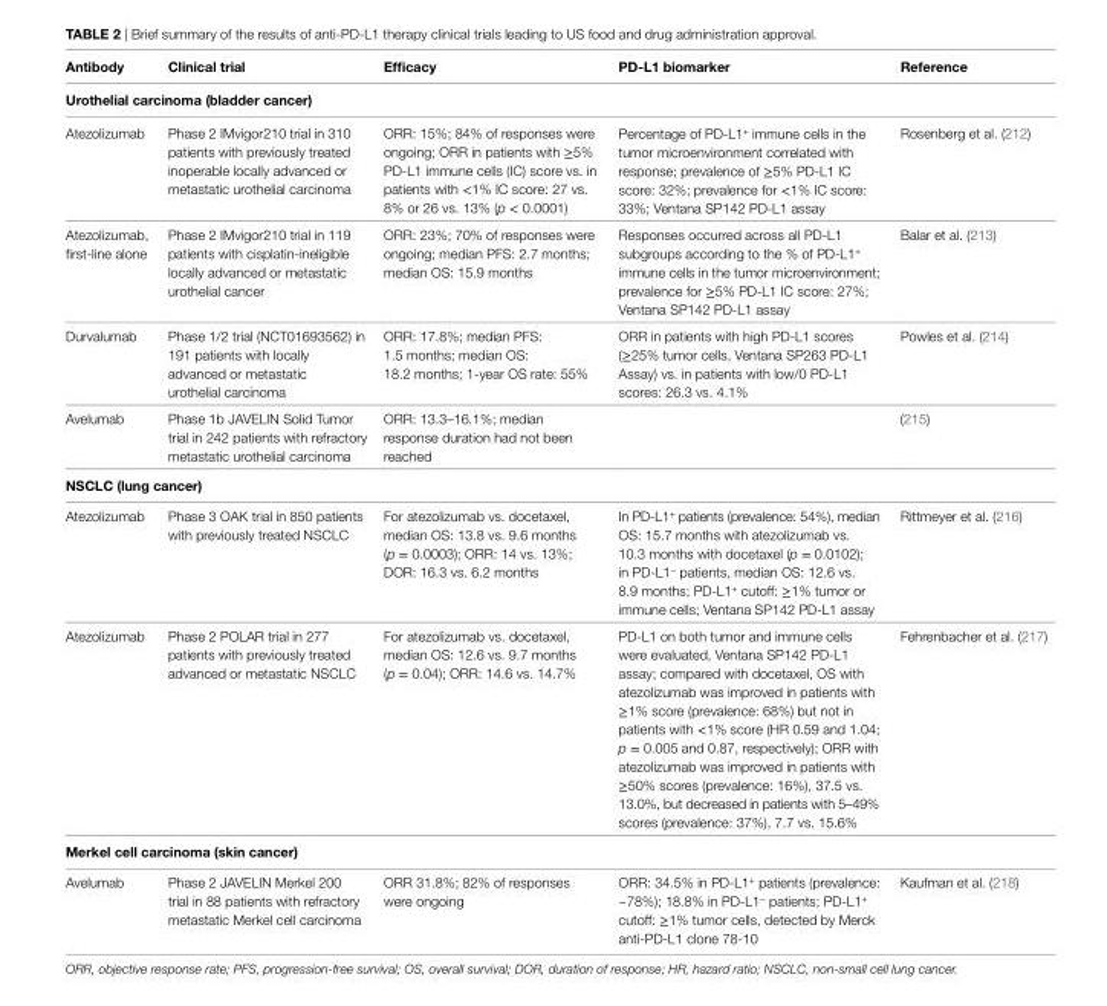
<table><thead><tr><td>Antibody</td><td>Clinical trial</td><td>efficacy</td><td>PD-L1 biomarker</td><td>Reference</td></tr></thead><tbody><tr><td colspan="5">Urothelial carcinoma (bladder cancer)</td></tr><tr><td>Atezolizumab</td><td>Phase 2 IMvigor210 trial in 310 patients with previously treated inoperable locally advanced or metastatic urothelial carcinoma</td><td>ORR: 15%; 84% of responses were ongoing; ORR in patients with ≥5% PD-L1 immune cells (IC) score vs. in patients with &lt;1% IC score: 27 vs. 8% or 26 vs. 13% (p &lt; 0.0001)</td><td>Percentage of PD-L1<sup>+</sup> immune cells in the tumor microenvironment correlated with response; prevalence of ≥5% PD-L1 IC score: 32%; prevalence for &lt;1% IC score: 33%; Ventana SP142 PD-L1 assay</td><td>Rosenberg et al. (212)</td></tr><tr><td>Atezolizumab, first-line alone</td><td>Phase 2 IMvigor210 trial in 119 patients with cisplatin-ineligible locally advanced or metastatic urothelial cancer</td><td>ORR: 23%; 70% of responses were ongoing; median PFS: 2.7 months; median OS: 15.9 months</td><td>Responses occurred across all PD-L1 subgroups according to the % of PD-L1<sup>+</sup> immune cells in the tumor microenvironment; prevalence for ≥5% PD-L1 IC score: 27%; Ventana SP142 PD-L1 assay</td><td>Balar et al. (213)</td></tr><tr><td>Durvalumab</td><td>Phase 1/2 trial (NCT01693562) in 191 patients with locally advanced or metastatic urothelial carcinoma</td><td>ORR: 17.8%; median PFS: 1.5 months; median OS: 18.2 months; 1-year OS rate: 55%</td><td>ORR in patients with high PD-L1 scores (≥25% tumor cells, Ventana SP263 PD-L1 Assay) vs. in patients with low/0 PD-L1 scores: 26.3 vs. 4.1%</td><td>Powles et al. (214)</td></tr><tr><td>Avelumab</td><td>Phase 1b JAVELIN Solid Tumor trial in 242 patients with refractory metastatic urothelial carcinoma</td><td>ORR: 13.3–16.1%; median response duration had not been reached</td><td></td><td>(215)</td></tr><tr><td colspan="5">NSCLC (lung cancer)</td></tr><tr><td>Atezolizumab</td><td>Phase 3 OAK trial in 850 patients with previously treated NSCLC</td><td>For atezolizumab vs. docetaxel, median OS: 13.8 vs. 9.6 months (p = 0.0003); ORR: 14 vs. 13%; DOR: 16.3 vs. 6.2 months</td><td>In PD-L1<sup>+</sup> patients (prevalence: 54%), median OS: 15.7 months with atezolizumab vs. 10.3 months with docetaxel (p = 0.0102); in PD-L1<sup>−</sup> patients, median OS: 12.6 vs. 8.9 months; PD-L1<sup>+</sup> cutoff: ≥1% tumor or immune cells; Ventana SP142 PD-L1 assay</td><td>Rittmeyer et al. (216)</td></tr><tr><td>Atezolizumab</td><td>Phase 2 POLAR trial in 277 patients with previously treated advanced or metastatic NSCLC</td><td>For atezolizumab vs. docetaxel, median OS: 12.6 vs. 9.7 months (p = 0.04); ORR: 14.6 vs. 14.7%</td><td>PD-L1 on both tumor and immune cells were evaluated, Ventana SP142 PD-L1 assay; compared with docetaxel, OS with atezolizumab was improved in patients with ≥1% score (prevalence: 68%) but not in patients with &lt;1% score (HR 0.59 and 1.04; p = 0.005 and 0.87, respectively); ORR with atezolizumab was improved in patients with ≥50% scores (prevalence: 16%), 37.5 vs. 13.0%, but decreased in patients with 5–49% scores (prevalence: 37%), 7.7 vs. 15.6%</td><td>Fehrenbacher et al. (217)</td></tr><tr><td colspan="5">Merkel cell carcinoma (skin cancer)</td></tr><tr><td>Avelumab</td><td>Phase 2 JAVELIN Merkel 200 trial in 88 patients with refractory metastatic Merkel cell carcinoma</td><td>ORR 31.8%; 82% of responses were ongoing</td><td>ORR: 34.5% in PD-L1<sup>+</sup> patients (prevalence: ~78%); 18.8% in PD-L1<sup>−</sup> patients; PD-L1<sup>+</sup> cutoff: ≥1% tumor cells, detected by Merck anti-PD-L1 clone 78-10</td><td>Kaufman et al. (218)</td></tr></tbody></table>